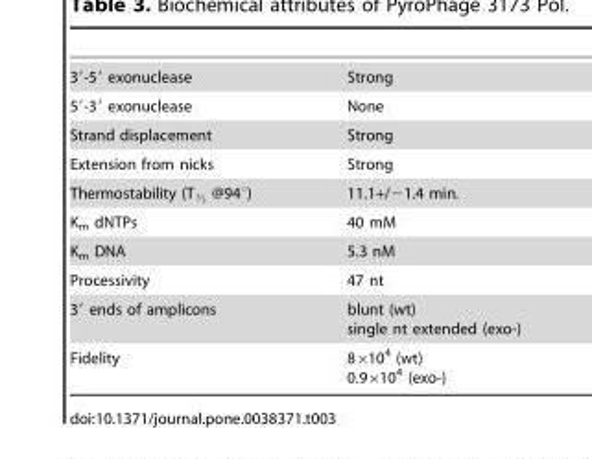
<table><tbody><tr><td>3′-5′ exonuclease</td><td>Strong</td></tr><tr><td>5′-3′ exonuclease</td><td>None</td></tr><tr><td>Strand displacement</td><td>Strong</td></tr><tr><td>Extension from nicks</td><td>Strong</td></tr><tr><td>Thermostability (TK @94u)</td><td>11.1+/−1.4 min.</td></tr><tr><td>K<sub>m</sub> dNTPs</td><td>40 mM</td></tr><tr><td>K<sub>m</sub> DNA</td><td>5.3 nM</td></tr><tr><td>Processivity</td><td>47 nt</td></tr><tr><td>3′ ends of amplicons</td><td>blunt (wt) single nt extended (exo-)</td></tr><tr><td>Fidelity</td><td>8×10<sup>4</sup> (wt) 0.9×10<sup>4</sup> (exo-)</td></tr></tbody></table>